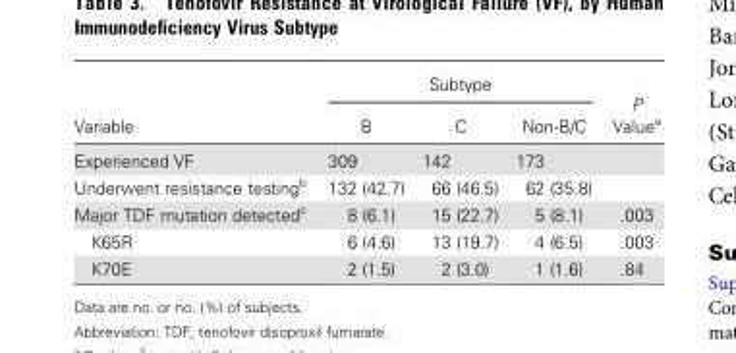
<table><thead><tr><td rowspan="2">Variable</td><td colspan="3">Subtype</td><td rowspan="2">P Value<sup>a</sup></td></tr><tr><td>B</td><td>C</td><td>Non-B/C</td></tr></thead><tbody><tr><td>Experienced VF</td><td>309</td><td>142</td><td>173</td><td></td></tr><tr><td>Underwent resistance testing<sup>b</sup></td><td>132 (42.7)</td><td>66 (46.5)</td><td>62 (35.8)</td><td></td></tr><tr><td>Major TDF mutation detected<sup>c</sup></td><td>8 (6.1)</td><td>15 (22.7)</td><td>5 (8.1)</td><td>.003</td></tr><tr><td>K65R</td><td>6 (4.6)</td><td>13 (19.7)</td><td>4 (6.5)</td><td>.003</td></tr><tr><td>K70E</td><td>2 (1.5)</td><td>2 (3.0)</td><td>1 (1.6)</td><td>.84</td></tr></tbody></table>